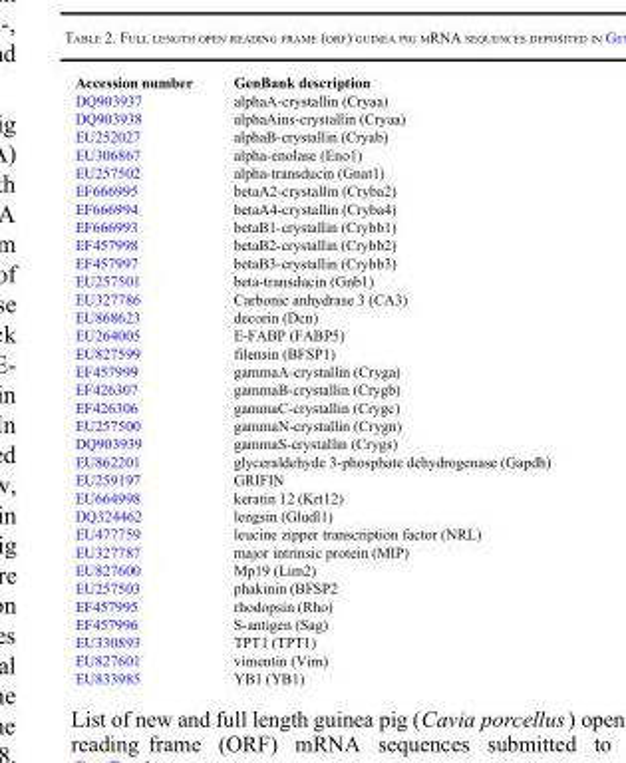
<table><thead><tr><td>Accession number</td><td>GenBank description</td></tr></thead><tbody><tr><td>DQ903937</td><td>alphaA-crystallin (Cryaa)</td></tr><tr><td>DQ903938</td><td>alphaAins-crystallin (Cryaa)</td></tr><tr><td>EU252027</td><td>alphaB-crystallin (Cryab)</td></tr><tr><td>EU306867</td><td>alpha-enolase (Eno1)</td></tr><tr><td>EU257502</td><td>alpha-transducin (Gnat1)</td></tr><tr><td>EF666995</td><td>betaA2-crystallin (Cryba2)</td></tr><tr><td>EF666994</td><td>betaA4-crystallin (Cryba4)</td></tr><tr><td>EF666993</td><td>betaB1-crystallin (Crybb1)</td></tr><tr><td>EF457998</td><td>betaB2-crystallin (Crybb2)</td></tr><tr><td>EF457997</td><td>betaB3-crystallin (Crybb3)</td></tr><tr><td>EU257501</td><td>beta-transducin (Gnb1)</td></tr><tr><td>EU327786</td><td>Carbonic anhydrase 3 (CA3)</td></tr><tr><td>EU868623</td><td>decorin (Dcn)</td></tr><tr><td>EU264005</td><td>E-FABP (FABP5)</td></tr><tr><td>EU827599</td><td>filensin (BFSP1)</td></tr><tr><td>EF457999</td><td>gammaA-crystallin (Cryga)</td></tr><tr><td>EF426307</td><td>gammaB-crystallin (Crygb)</td></tr><tr><td>EF426306</td><td>gammaC-crystallin (Crygc)</td></tr><tr><td>EU257500</td><td>gammaN-crystallin (Crygn)</td></tr><tr><td>DQ903939</td><td>gammaS-crystallin (Crygs)</td></tr><tr><td>EU862201</td><td>glyceraldehyde 3-phosphate dehydrogenase (Gapdh)</td></tr><tr><td>EU259197</td><td>GRIFIN</td></tr><tr><td>EU664998</td><td>keratin 12 (Krt12)</td></tr><tr><td>DQ324462</td><td>lengsin (Gludl1)</td></tr><tr><td>EU477759</td><td>leucine zipper transcription factor (NRL)</td></tr><tr><td>EU327787</td><td>major intrinsic protein (MIP)</td></tr><tr><td>EU827600</td><td>Mp19 (Lim2)</td></tr><tr><td>EU257503</td><td>phakinin (BFSP2</td></tr><tr><td>EF457995</td><td>rhodopsin (Rho)</td></tr><tr><td>EF457996</td><td>S-antigen (Sag)</td></tr><tr><td>EU330893</td><td>TPT1 (TPT1)</td></tr><tr><td>EU827601</td><td>vimentin (Vim)</td></tr><tr><td>EU833985</td><td>YB1 (YB1)</td></tr></tbody></table>